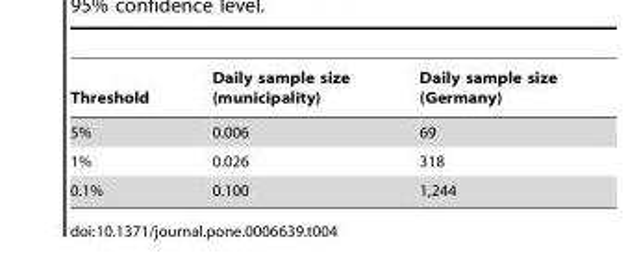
<table><thead><tr><td>Threshold</td><td>Daily sample size (municipality)</td><td>Daily sample size (Germany)</td></tr></thead><tbody><tr><td>5%</td><td>0.006</td><td>69</td></tr><tr><td>1%</td><td>0.026</td><td>318</td></tr><tr><td>0.1%</td><td>0.100</td><td>1,244</td></tr></tbody></table>